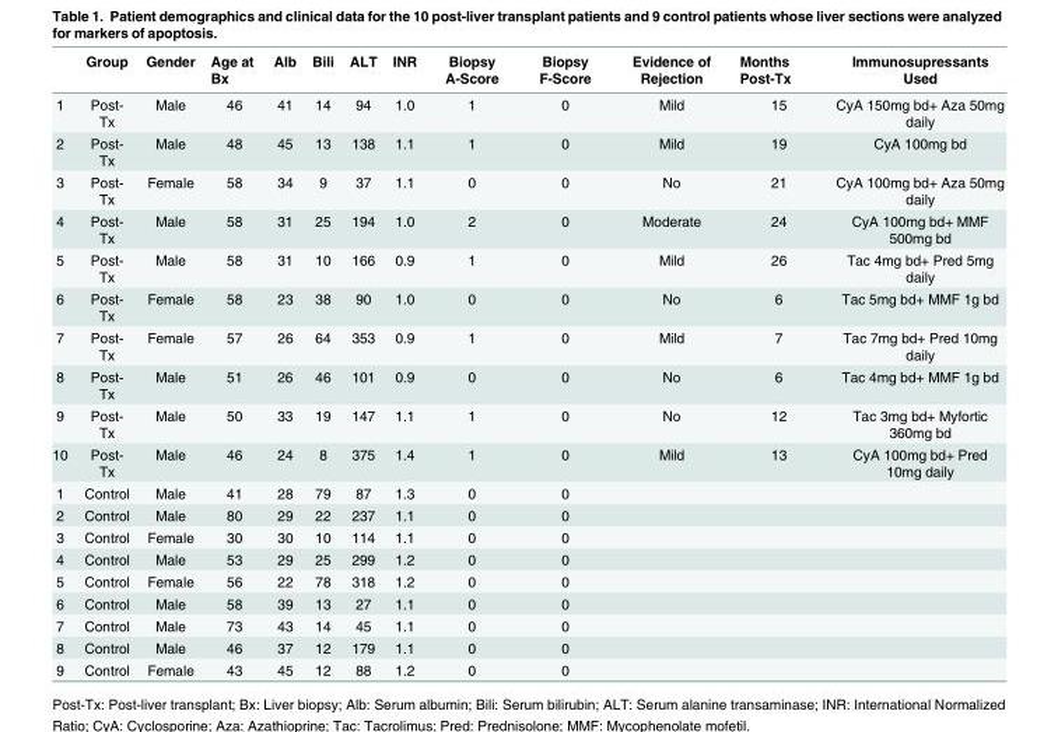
<table><thead><tr><td></td><td>Group</td><td>Gender</td><td>Age at Bx</td><td>Alb</td><td>Bili</td><td>ALT</td><td>INR</td><td>Biopsy A-Score</td><td>Biopsy F-Score</td><td>Evidence of Rejection</td><td>Months Post-Tx</td><td>Immunosupressants Used</td></tr></thead><tbody><tr><td>1</td><td>Post- Tx</td><td>Male</td><td>46</td><td>41</td><td>14</td><td>94</td><td>1.0</td><td>1</td><td>0</td><td>Mild</td><td>15</td><td>CyA 150mg bd+ Aza 50mg daily</td></tr><tr><td>2</td><td>Post- Tx</td><td>Male</td><td>48</td><td>45</td><td>13</td><td>138</td><td>1.1</td><td>1</td><td>0</td><td>Mild</td><td>19</td><td>CyA 100mg bd</td></tr><tr><td>3</td><td>Post- Tx</td><td>Female</td><td>58</td><td>34</td><td>9</td><td>37</td><td>1.1</td><td>0</td><td>0</td><td>No</td><td>21</td><td>CyA 100mg bd+ Aza 50mg daily</td></tr><tr><td>4</td><td>Post- Tx</td><td>Male</td><td>58</td><td>31</td><td>25</td><td>194</td><td>1.0</td><td>2</td><td>0</td><td>Moderate</td><td>24</td><td>CyA 100mg bd+ MMF 500mg bd</td></tr><tr><td>5</td><td>Post- Tx</td><td>Male</td><td>58</td><td>31</td><td>10</td><td>166</td><td>0.9</td><td>1</td><td>0</td><td>Mild</td><td>26</td><td>Tac 4mg bd+ Pred 5mg daily</td></tr><tr><td>6</td><td>Post- Tx</td><td>Female</td><td>58</td><td>23</td><td>38</td><td>90</td><td>1.0</td><td>0</td><td>0</td><td>No</td><td>6</td><td>Tac 5mg bd+ MMF 1g bd</td></tr><tr><td>7</td><td>Post- Tx</td><td>Female</td><td>57</td><td>26</td><td>64</td><td>353</td><td>0.9</td><td>1</td><td>0</td><td>Mild</td><td>7</td><td>Tac 7mg bd+ Pred 10mg daily</td></tr><tr><td>8</td><td>Post- Tx</td><td>Male</td><td>51</td><td>26</td><td>46</td><td>101</td><td>0.9</td><td>0</td><td>0</td><td>No</td><td>6</td><td>Tac 4mg bd+ MMF 1g bd</td></tr><tr><td>9</td><td>Post- Tx</td><td>Male</td><td>50</td><td>33</td><td>19</td><td>147</td><td>1.1</td><td>1</td><td>0</td><td>No</td><td>12</td><td>Tac 3mg bd+ Myfortic 360mg bd</td></tr><tr><td>10</td><td>Post- Tx</td><td>Male</td><td>46</td><td>24</td><td>8</td><td>375</td><td>1.4</td><td>1</td><td>0</td><td>Mild</td><td>13</td><td>CyA 100mg bd+ Pred 10mg daily</td></tr><tr><td>1</td><td>Control</td><td>Male</td><td>41</td><td>28</td><td>79</td><td>87</td><td>1.3</td><td>0</td><td>0</td><td></td><td></td><td></td></tr><tr><td>2</td><td>Control</td><td>Male</td><td>80</td><td>29</td><td>22</td><td>237</td><td>1.1</td><td>0</td><td>0</td><td></td><td></td><td></td></tr><tr><td>3</td><td>Control</td><td>Female</td><td>30</td><td>30</td><td>10</td><td>114</td><td>1.1</td><td>0</td><td>0</td><td></td><td></td><td></td></tr><tr><td>4</td><td>Control</td><td>Male</td><td>53</td><td>29</td><td>25</td><td>299</td><td>1.2</td><td>0</td><td>0</td><td></td><td></td><td></td></tr><tr><td>5</td><td>Control</td><td>Female</td><td>56</td><td>22</td><td>78</td><td>318</td><td>1.2</td><td>0</td><td>0</td><td></td><td></td><td></td></tr><tr><td>6</td><td>Control</td><td>Male</td><td>58</td><td>39</td><td>13</td><td>27</td><td>1.1</td><td>0</td><td>0</td><td></td><td></td><td></td></tr><tr><td>7</td><td>Control</td><td>Male</td><td>73</td><td>43</td><td>14</td><td>45</td><td>1.1</td><td>0</td><td>0</td><td></td><td></td><td></td></tr><tr><td>8</td><td>Control</td><td>Male</td><td>46</td><td>37</td><td>12</td><td>179</td><td>1.1</td><td>0</td><td>0</td><td></td><td></td><td></td></tr><tr><td>9</td><td>Control</td><td>Female</td><td>43</td><td>45</td><td>12</td><td>88</td><td>1.2</td><td>0</td><td>0</td><td></td><td></td><td></td></tr></tbody></table>